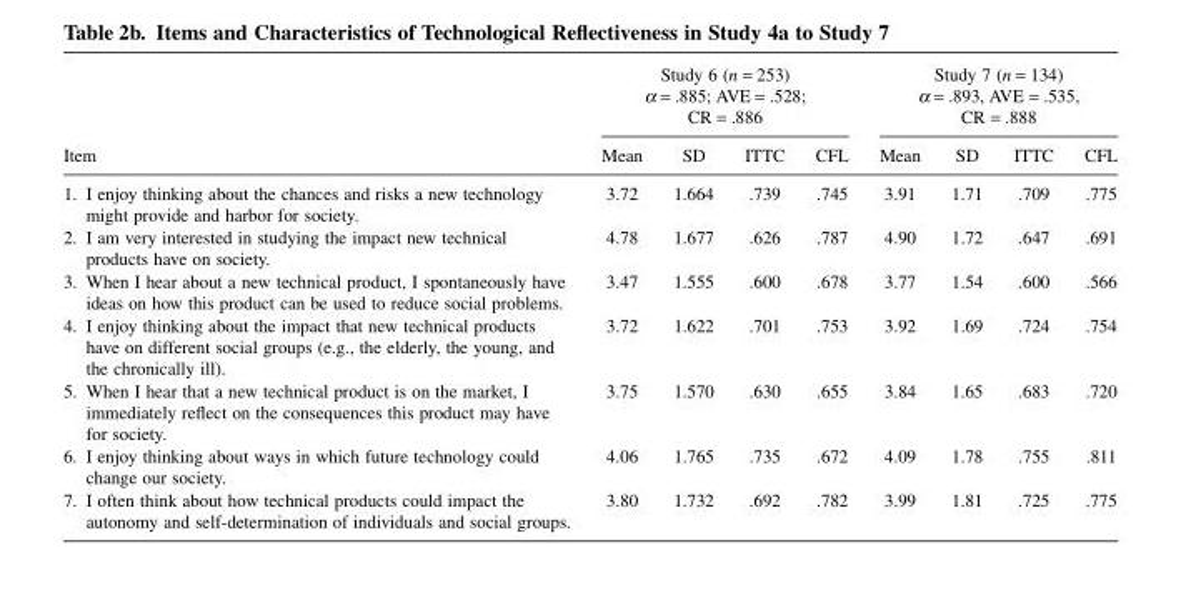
<table><thead><tr><td rowspan="2">Item</td><td colspan="4">Study 6 (n = 253) α = .885; AVE = .528; CR = .886</td><td colspan="4">Study 7 (n = 134) α = .893, AVE = .535, CR = .888</td></tr><tr><td>Mean</td><td>SD</td><td>ITTC</td><td>CFL</td><td>Mean</td><td>SD</td><td>ITTC</td><td>CFL</td></tr></thead><tbody><tr><td>1. I enjoy thinking about the chances and risks a new technology might provide and harbor for society.</td><td>3.72</td><td>1.664</td><td>.739</td><td>.745</td><td>3.91</td><td>1.71</td><td>.709</td><td>.775</td></tr><tr><td>2. I am very interested in studying the impact new technical products have on society.</td><td>4.78</td><td>1.677</td><td>.626</td><td>.787</td><td>4.90</td><td>1.72</td><td>.647</td><td>.691</td></tr><tr><td>3. When I hear about a new technical product, I spontaneously have ideas on how this product can be used to reduce social problems.</td><td>3.47</td><td>1.555</td><td>.600</td><td>.678</td><td>3.77</td><td>1.54</td><td>.600</td><td>.566</td></tr><tr><td>4. I enjoy thinking about the impact that new technical products have on different social groups (e.g., the elderly, the young, and the chronically ill).</td><td>3.72</td><td>1.622</td><td>.701</td><td>.753</td><td>3.92</td><td>1.69</td><td>.724</td><td>.754</td></tr><tr><td>5. When I hear that a new technical product is on the market, I immediately reflect on the consequences this product may have for society.</td><td>3.75</td><td>1.570</td><td>.630</td><td>.655</td><td>3.84</td><td>1.65</td><td>.683</td><td>.720</td></tr><tr><td>6. I enjoy thinking about ways in which future technology could change our society.</td><td>4.06</td><td>1.765</td><td>.735</td><td>.672</td><td>4.09</td><td>1.78</td><td>.755</td><td>.811</td></tr><tr><td>7. I often think about how technical products could impact the autonomy and self-determination of individuals and social groups.</td><td>3.80</td><td>1.732</td><td>.692</td><td>.782</td><td>3.99</td><td>1.81</td><td>.725</td><td>.775</td></tr></tbody></table>